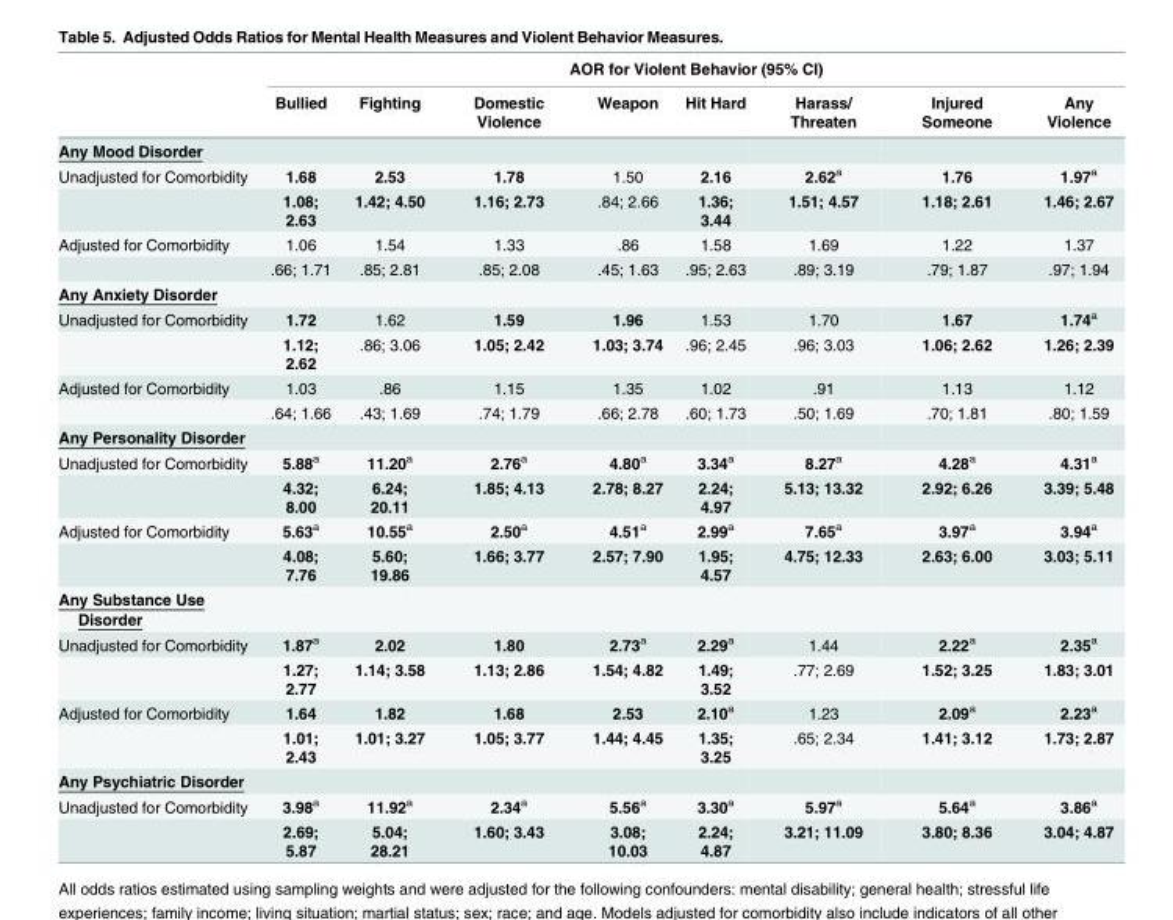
<table><thead><tr><td rowspan="2"></td><td colspan="8">AOR for Violent Behavior (95% CI)</td></tr><tr><td>Bullied</td><td>Fighting</td><td>Domestic Violence</td><td>Weapon</td><td>Hit Hard</td><td>Harass/ Threaten</td><td>Injured Someone</td><td>Any Violence</td></tr></thead><tbody><tr><td colspan="9">Any Mood Disorder</td></tr><tr><td rowspan="2">Unadjusted for Comorbidity</td><td>1.68</td><td>2.53</td><td>1.78</td><td>1.50</td><td>2.16</td><td>2.62<sup>a</sup></td><td>1.76</td><td>1.97<sup>a</sup></td></tr><tr><td>1.08; 2.63</td><td>1.42; 4.50</td><td>1.16; 2.73</td><td>.84; 2.66</td><td>1.36; 3.44</td><td>1.51; 4.57</td><td>1.18; 2.61</td><td>1.46; 2.67</td></tr><tr><td rowspan="2">Adjusted for Comorbidity</td><td>1.06</td><td>1.54</td><td>1.33</td><td>.86</td><td>1.58</td><td>1.69</td><td>1.22</td><td>1.37</td></tr><tr><td>.66; 1.71</td><td>.85; 2.81</td><td>.85; 2.08</td><td>.45; 1.63</td><td>.95; 2.63</td><td>.89; 3.19</td><td>.79; 1.87</td><td>.97; 1.94</td></tr><tr><td colspan="9">Any Anxiety Disorder</td></tr><tr><td rowspan="2">Unadjusted for Comorbidity</td><td>1.72</td><td>1.62</td><td>1.59</td><td>1.96</td><td>1.53</td><td>1.70</td><td>1.67</td><td>1.74<sup>a</sup></td></tr><tr><td>1.12; 2.62</td><td>.86; 3.06</td><td>1.05; 2.42</td><td>1.03; 3.74</td><td>.96; 2.45</td><td>.96; 3.03</td><td>1.06; 2.62</td><td>1.26; 2.39</td></tr><tr><td rowspan="2">Adjusted for Comorbidity</td><td>1.03</td><td>.86</td><td>1.15</td><td>1.35</td><td>1.02</td><td>.91</td><td>1.13</td><td>1.12</td></tr><tr><td>.64; 1.66</td><td>.43; 1.69</td><td>.74; 1.79</td><td>.66; 2.78</td><td>.60; 1.73</td><td>.50; 1.69</td><td>.70; 1.81</td><td>.80; 1.59</td></tr><tr><td colspan="9">Any Personality Disorder</td></tr><tr><td rowspan="2">Unadjusted for Comorbidity</td><td>5.88<sup>a</sup></td><td>11.20<sup>a</sup></td><td>2.76<sup>a</sup></td><td>4.80<sup>a</sup></td><td>3.34<sup>a</sup></td><td>8.27<sup>a</sup></td><td>4.28<sup>a</sup></td><td>4.31<sup>a</sup></td></tr><tr><td>4.32; 8.00</td><td>6.24; 20.11</td><td>1.85; 4.13</td><td>2.78; 8.27</td><td>2.24; 4.97</td><td>5.13; 13.32</td><td>2.92; 6.26</td><td>3.39; 5.48</td></tr><tr><td rowspan="2">Adjusted for Comorbidity</td><td>5.63<sup>a</sup></td><td>10.55<sup>a</sup></td><td>2.50<sup>a</sup></td><td>4.51<sup>a</sup></td><td>2.99<sup>a</sup></td><td>7.65<sup>a</sup></td><td>3.97<sup>a</sup></td><td>3.94<sup>a</sup></td></tr><tr><td>4.08; 7.76</td><td>5.60; 19.86</td><td>1.66; 3.77</td><td>2.57; 7.90</td><td>1.95; 4.57</td><td>4.75; 12.33</td><td>2.63; 6.00</td><td>3.03; 5.11</td></tr><tr><td colspan="9">Any Substance Use Disorder</td></tr><tr><td rowspan="2">Unadjusted for Comorbidity</td><td>1.87<sup>a</sup></td><td>2.02</td><td>1.80</td><td>2.73<sup>a</sup></td><td>2.29<sup>a</sup></td><td>1.44</td><td>2.22<sup>a</sup></td><td>2.35<sup>a</sup></td></tr><tr><td>1.27; 2.77</td><td>1.14; 3.58</td><td>1.13; 2.86</td><td>1.54; 4.82</td><td>1.49; 3.52</td><td>.77; 2.69</td><td>1.52; 3.25</td><td>1.83; 3.01</td></tr><tr><td rowspan="2">Adjusted for Comorbidity</td><td>1.64</td><td>1.82</td><td>1.68</td><td>2.53</td><td>2.10<sup>a</sup></td><td>1.23</td><td>2.09<sup>a</sup></td><td>2.23<sup>a</sup></td></tr><tr><td>1.01; 2.43</td><td>1.01; 3.27</td><td>1.05; 3.77</td><td>1.44; 4.45</td><td>1.35; 3.25</td><td>.65; 2.34</td><td>1.41; 3.12</td><td>1.73; 2.87</td></tr><tr><td colspan="9">Any Psychiatric Disorder</td></tr><tr><td rowspan="2">Unadjusted for Comorbidity</td><td>3.98<sup>a</sup></td><td>11.92<sup>a</sup></td><td>2.34<sup>a</sup></td><td>5.56<sup>a</sup></td><td>3.30<sup>a</sup></td><td>5.97<sup>a</sup></td><td>5.64<sup>a</sup></td><td>3.86<sup>a</sup></td></tr><tr><td>2.69; 5.87</td><td>5.04; 28.21</td><td>1.60; 3.43</td><td>3.08; 10.03</td><td>2.24; 4.87</td><td>3.21; 11.09</td><td>3.80; 8.36</td><td>3.04; 4.87</td></tr></tbody></table>